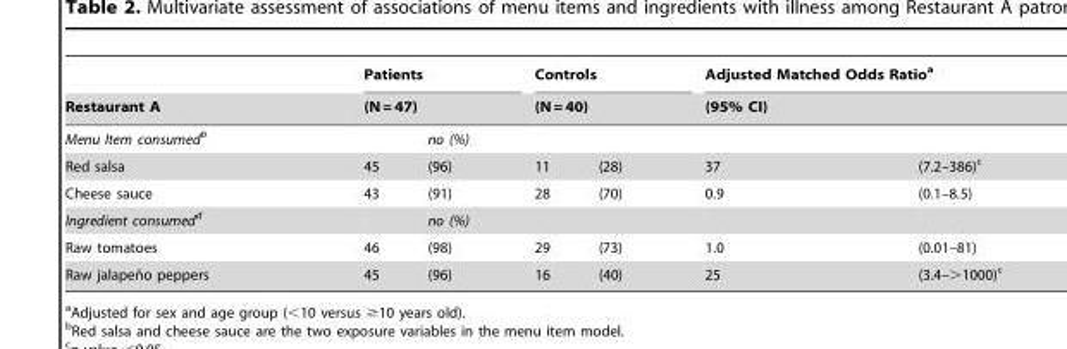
<table><thead><tr><td rowspan="4">Restaurant A Menu Item consumedb Red salsa</td><td rowspan="2" colspan="2">Patients (N = 47)</td><td rowspan="2" colspan="2">Controls (N = 40)</td><td rowspan="2" colspan="2">Adjusted Matched Odds Ratio<sup>a</sup> (95% CI)</td></tr><tr></tr><tr><td rowspan="2">45</td><td colspan="2">no (%)</td><td rowspan="2">(28)</td><td rowspan="2">37</td><td rowspan="2">(7.2–386)<sup>c</sup></td></tr><tr><td>(96)</td><td>11</td></tr></thead><tbody><tr><td>Cheese sauce</td><td>43</td><td>(91)</td><td>28</td><td>(70)</td><td>0.9</td><td>(0.1–8.5)</td></tr><tr><td>Ingredient consumedd</td><td></td><td colspan="2">no (%)</td><td></td><td></td><td></td></tr><tr><td>Raw tomatoes</td><td>46</td><td>(98)</td><td>29</td><td>(73)</td><td>1.0</td><td>(0.01–81)</td></tr><tr><td>Raw jalapen˜o peppers</td><td>45</td><td>(96)</td><td>16</td><td>(40)</td><td>25</td><td>(3.4–&gt;1000)<sup>c</sup></td></tr></tbody></table>